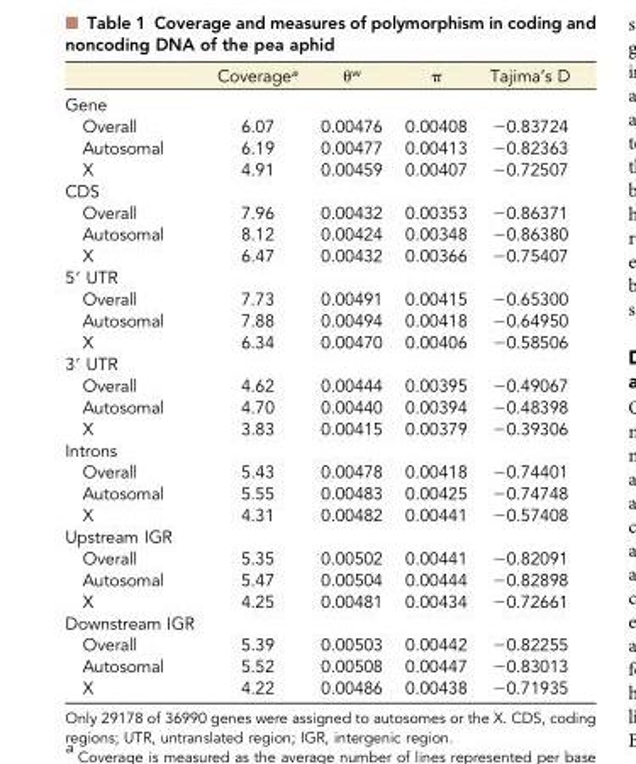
<table><thead><tr><td></td><td>Coverage<sup>a</sup></td><td>θ<sup>w</sup></td><td>π</td><td>Tajima’s D</td></tr></thead><tbody><tr><td colspan="5">Gene</td></tr><tr><td>Overall</td><td>6.07</td><td>0.00476</td><td>0.00408</td><td>−0.83724</td></tr><tr><td>Autosomal</td><td>6.19</td><td>0.00477</td><td>0.00413</td><td>−0.82363</td></tr><tr><td>X</td><td>4.91</td><td>0.00459</td><td>0.00407</td><td>−0.72507</td></tr><tr><td colspan="5">CDS</td></tr><tr><td>Overall</td><td>7.96</td><td>0.00432</td><td>0.00353</td><td>−0.86371</td></tr><tr><td>Autosomal</td><td>8.12</td><td>0.00424</td><td>0.00348</td><td>−0.86380</td></tr><tr><td>X</td><td>6.47</td><td>0.00432</td><td>0.00366</td><td>−0.75407</td></tr><tr><td colspan="5">5′ UTR</td></tr><tr><td>Overall</td><td>7.73</td><td>0.00491</td><td>0.00415</td><td>−0.65300</td></tr><tr><td>Autosomal</td><td>7.88</td><td>0.00494</td><td>0.00418</td><td>−0.64950</td></tr><tr><td>X</td><td>6.34</td><td>0.00470</td><td>0.00406</td><td>−0.58506</td></tr><tr><td colspan="5">3′ UTR</td></tr><tr><td>Overall</td><td>4.62</td><td>0.00444</td><td>0.00395</td><td>−0.49067</td></tr><tr><td>Autosomal</td><td>4.70</td><td>0.00440</td><td>0.00394</td><td>−0.48398</td></tr><tr><td>X</td><td>3.83</td><td>0.00415</td><td>0.00379</td><td>−0.39306</td></tr><tr><td colspan="5">Introns</td></tr><tr><td>Overall</td><td>5.43</td><td>0.00478</td><td>0.00418</td><td>−0.74401</td></tr><tr><td>Autosomal</td><td>5.55</td><td>0.00483</td><td>0.00425</td><td>−0.74748</td></tr><tr><td>X</td><td>4.31</td><td>0.00482</td><td>0.00441</td><td>−0.57408</td></tr><tr><td colspan="5">Upstream IGR</td></tr><tr><td>Overall</td><td>5.35</td><td>0.00502</td><td>0.00441</td><td>−0.82091</td></tr><tr><td>Autosomal</td><td>5.47</td><td>0.00504</td><td>0.00444</td><td>−0.82898</td></tr><tr><td>X</td><td>4.25</td><td>0.00481</td><td>0.00434</td><td>−0.72661</td></tr><tr><td colspan="5">Downstream IGR</td></tr><tr><td>Overall</td><td>5.39</td><td>0.00503</td><td>0.00442</td><td>−0.82255</td></tr><tr><td>Autosomal</td><td>5.52</td><td>0.00508</td><td>0.00447</td><td>−0.83013</td></tr><tr><td>X</td><td>4.22</td><td>0.00486</td><td>0.00438</td><td>−0.71935</td></tr></tbody></table>